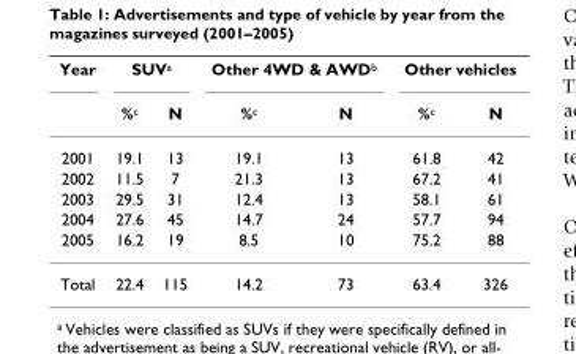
<table><thead><tr><td rowspan="2">Year</td><td colspan="2">SUV<sup>a</sup></td><td colspan="2">Other 4WD &amp; AWD<sup>b</sup></td><td colspan="2">Other vehicles</td></tr><tr><td>%<sup>c</sup></td><td>N</td><td>%<sup>c</sup></td><td>N</td><td>%<sup>c</sup></td><td>N</td></tr></thead><tbody><tr><td>2001</td><td>19.1</td><td>13</td><td>19.1</td><td>13</td><td>61.8</td><td>42</td></tr><tr><td>2002</td><td>11.5</td><td>7</td><td>21.3</td><td>13</td><td>67.2</td><td>41</td></tr><tr><td>2003</td><td>29.5</td><td>31</td><td>12.4</td><td>13</td><td>58.1</td><td>61</td></tr><tr><td>2004</td><td>27.6</td><td>45</td><td>14.7</td><td>24</td><td>57.7</td><td>94</td></tr><tr><td>2005</td><td>16.2</td><td>19</td><td>8.5</td><td>10</td><td>75.2</td><td>88</td></tr><tr><td>Total</td><td>22.4</td><td>115</td><td>14.2</td><td>73</td><td>63.4</td><td>326</td></tr></tbody></table>